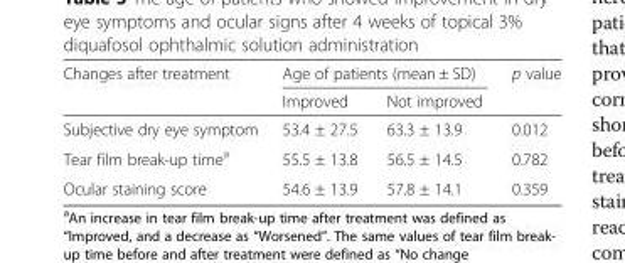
<table><thead><tr><td rowspan="2">Changes after treatment</td><td colspan="2">Age of patients (mean ± SD)</td><td rowspan="2">p value</td></tr><tr><td>Improved</td><td>Not improved</td></tr></thead><tbody><tr><td>Subjective dry eye symptom</td><td>53.4 ± 27.5</td><td>63.3 ± 13.9</td><td>0.012</td></tr><tr><td>Tear film break-up time<sup>a</sup></td><td>55.5 ± 13.8</td><td>56.5 ± 14.5</td><td>0.782</td></tr><tr><td>Ocular staining score</td><td>54.6 ± 13.9</td><td>57.8 ± 14.1</td><td>0.359</td></tr></tbody></table>